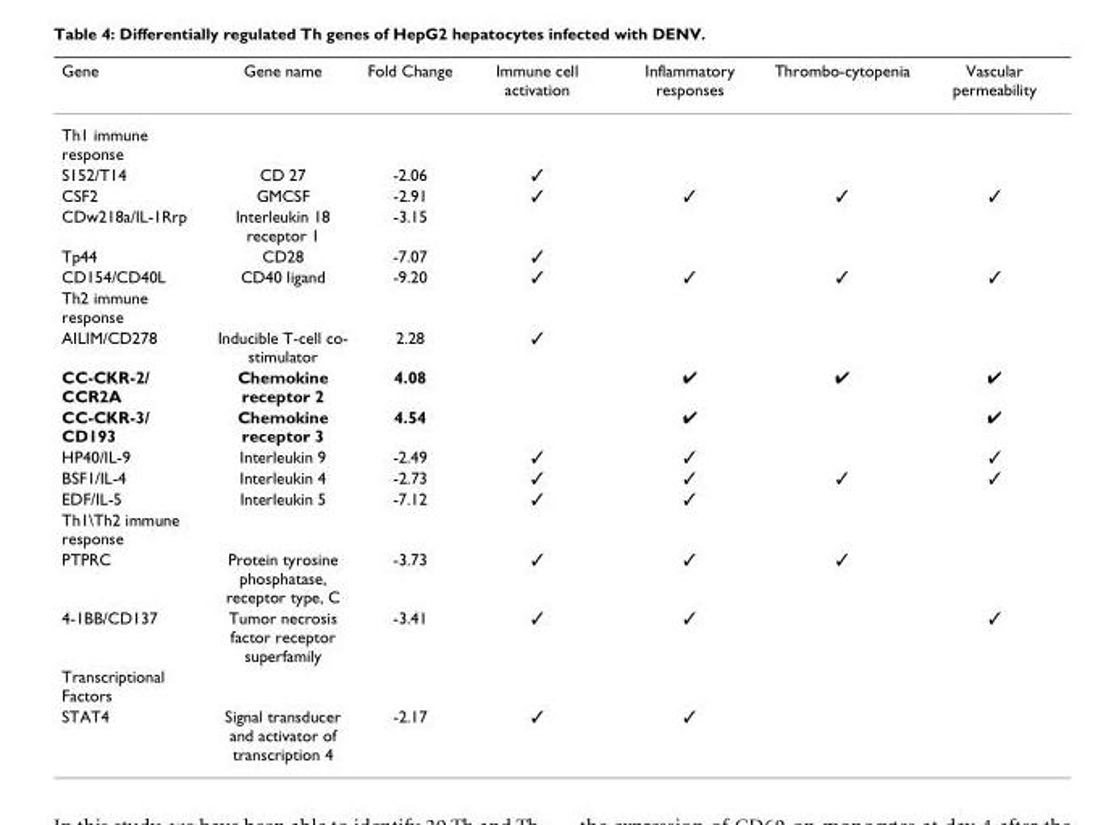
<table><thead><tr><td>Gene</td><td>Gene name</td><td>Fold Change</td><td>Immune cell activation</td><td>Inflammatory responses</td><td>Thrombo-cytopenia</td><td>Vascular permeability</td></tr></thead><tbody><tr><td colspan="7">Th1 immune response</td></tr><tr><td>S152/T14</td><td>CD 27</td><td>-2.06</td><td>✓</td><td></td><td></td><td></td></tr><tr><td>CSF2</td><td>GMCSF</td><td>-2.91</td><td>✓</td><td>✓</td><td>✓</td><td>✓</td></tr><tr><td>CDw218a/IL-1Rrp</td><td>Interleukin 18 receptor 1</td><td>-3.15</td><td></td><td></td><td></td><td></td></tr><tr><td>Tp44</td><td>CD28</td><td>-7.07</td><td>✓</td><td></td><td></td><td></td></tr><tr><td>CD154/CD40L</td><td>CD40 ligand</td><td>-9.20</td><td>✓</td><td>✓</td><td>✓</td><td>✓</td></tr><tr><td colspan="7">Th2 immune response</td></tr><tr><td>AILIM/CD278</td><td>Inducible T-cell co- stimulator</td><td>2.28</td><td>✓</td><td></td><td></td><td></td></tr><tr><td>CC-CKR-2/ CCR2A</td><td>Chemokine receptor 2</td><td>4.08</td><td></td><td>✔</td><td>✔</td><td>✔</td></tr><tr><td>CC-CKR-3/ CD193</td><td>Chemokine receptor 3</td><td>4.54</td><td></td><td>✔</td><td></td><td>✔</td></tr><tr><td>HP40/IL-9</td><td>Interleukin 9</td><td>-2.49</td><td>✓</td><td>✓</td><td></td><td>✓</td></tr><tr><td>BSF1/IL-4</td><td>Interleukin 4</td><td>-2.73</td><td>✓</td><td>✓</td><td>✓</td><td>✓</td></tr><tr><td>EDF/IL-5</td><td>Interleukin 5</td><td>-7.12</td><td>✓</td><td>✓</td><td></td><td></td></tr><tr><td colspan="7">Th1\Th2 immune response</td></tr><tr><td>PTPRC</td><td>Protein tyrosine phosphatase, receptor type, C</td><td>-3.73</td><td>✓</td><td>✓</td><td>✓</td><td></td></tr><tr><td>4-1BB/CD137</td><td>Tumor necrosis factor receptor superfamily</td><td>-3.41</td><td>✓</td><td>✓</td><td></td><td>✓</td></tr><tr><td colspan="7">Transcriptional Factors</td></tr><tr><td>STAT4</td><td>Signal transducer and activator of transcription 4</td><td>-2.17</td><td>✓</td><td>✓</td><td></td><td></td></tr></tbody></table>